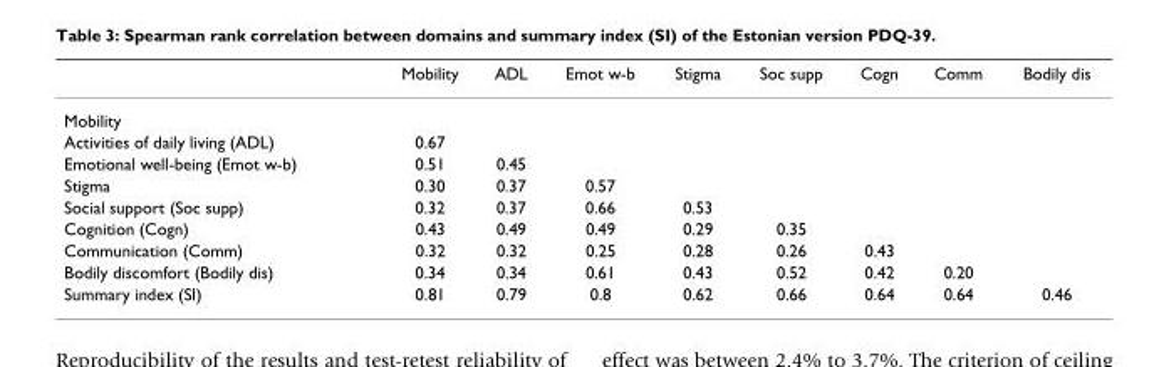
<table><thead><tr><td></td><td>Mobility</td><td>ADL</td><td>Emot w-b</td><td>Stigma</td><td>Soc supp</td><td>Cogn</td><td>Comm</td><td>Bodily dis</td></tr></thead><tbody><tr><td colspan="9">Mobility</td></tr><tr><td>Activities of daily living (ADL)</td><td>0.67</td><td></td><td></td><td></td><td></td><td></td><td></td><td></td></tr><tr><td>Emotional well-being (Emot w-b)</td><td>0.51</td><td>0.45</td><td></td><td></td><td></td><td></td><td></td><td></td></tr><tr><td>Stigma</td><td>0.30</td><td>0.37</td><td>0.57</td><td></td><td></td><td></td><td></td><td></td></tr><tr><td>Social support (Soc supp)</td><td>0.32</td><td>0.37</td><td>0.66</td><td>0.53</td><td></td><td></td><td></td><td></td></tr><tr><td>Cognition (Cogn)</td><td>0.43</td><td>0.49</td><td>0.49</td><td>0.29</td><td>0.35</td><td></td><td></td><td></td></tr><tr><td>Communication (Comm)</td><td>0.32</td><td>0.32</td><td>0.25</td><td>0.28</td><td>0.26</td><td>0.43</td><td></td><td></td></tr><tr><td>Bodily discomfort (Bodily dis)</td><td>0.34</td><td>0.34</td><td>0.61</td><td>0.43</td><td>0.52</td><td>0.42</td><td>0.20</td><td></td></tr><tr><td>Summary index (SI)</td><td>0.81</td><td>0.79</td><td>0.8</td><td>0.62</td><td>0.66</td><td>0.64</td><td>0.64</td><td>0.46</td></tr></tbody></table>